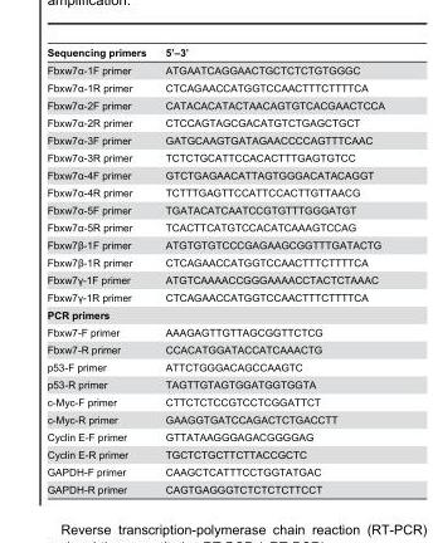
<table><thead><tr><td>Sequencing primers</td><td>5’–3’</td></tr></thead><tbody><tr><td>Fbxw7α-1F primer</td><td>ATGAATCAGGAACTGCTCTCTGTGGGC</td></tr><tr><td>Fbxw7α-1R primer</td><td>CTCAGAACCATGGTCCAACTTTCTTTTCA</td></tr><tr><td>Fbxw7α-2F primer</td><td>CATACACATACTAACAGTGTCACGAACTCCA</td></tr><tr><td>Fbxw7α-2R primer</td><td>CTCCAGTAGCGACATGTCTGAGCTGCT</td></tr><tr><td>Fbxw7α-3F primer</td><td>GATGCAAGTGATAGAACCCCAGTTTCAAC</td></tr><tr><td>Fbxw7α-3R primer</td><td>TCTCTGCATTCCACACTTTGAGTGTCC</td></tr><tr><td>Fbxw7α-4F primer</td><td>GTCTGAGAACATTAGTGGGACATACAGGT</td></tr><tr><td>Fbxw7α-4R primer</td><td>TCTTTGAGTTCCATTCCACTTGTTAACG</td></tr><tr><td>Fbxw7α-5F primer</td><td>TGATACATCAATCCGTGTTTGGGATGT</td></tr><tr><td>Fbxw7α-5R primer</td><td>TCACTTCATGTCCACATCAAAGTCCAG</td></tr><tr><td>Fbxw7β-1F primer</td><td>ATGTGTGTCCCGAGAAGCGGTTTGATACTG</td></tr><tr><td>Fbxw7β-1R primer</td><td>CTCAGAACCATGGTCCAACTTTCTTTTCA</td></tr><tr><td>Fbxw7γ-1F primer</td><td>ATGTCAAAACCGGGAAAACCTACTCTAAAC</td></tr><tr><td>Fbxw7γ-1R primer</td><td>CTCAGAACCATGGTCCAACTTTCTTTTCA</td></tr><tr><td colspan="2">PCR primers</td></tr><tr><td>Fbxw7-F primer</td><td>AAAGAGTTGTTAGCGGTTCTCG</td></tr><tr><td>Fbxw7-R primer</td><td>CCACATGGATACCATCAAACTG</td></tr><tr><td>p53-F primer</td><td>ATTCTGGGACAGCCAAGTC</td></tr><tr><td>p53-R primer</td><td>TAGTTGTAGTGGATGGTGGTA</td></tr><tr><td>c-Myc-F primer</td><td>CTTCTCTCCGTCCTCGGATTCT</td></tr><tr><td>c-Myc-R primer</td><td>GAAGGTGATCCAGACTCTGACCTT</td></tr><tr><td>Cyclin E-F primer</td><td>GTTATAAGGGAGACGGGGAG</td></tr><tr><td>Cyclin E-R primer</td><td>TGCTCTGCTTCTTACCGCTC</td></tr><tr><td>GAPDH-F primer</td><td>CAAGCTCATTTCCTGGTATGAC</td></tr><tr><td>GAPDH-R primer</td><td>CAGTGAGGGTCTCTCTCTTCCT</td></tr></tbody></table>